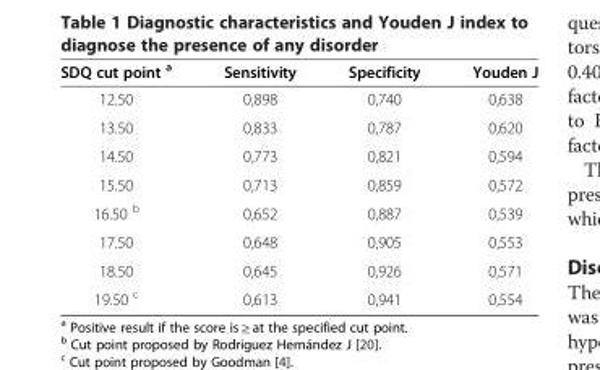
<table><thead><tr><td>SDQ cut point <sup>a</sup></td><td>Sensitivity</td><td>Specificity</td><td>Youden J</td></tr></thead><tbody><tr><td>12.50</td><td>0,898</td><td>0,740</td><td>0,638</td></tr><tr><td>13.50</td><td>0,833</td><td>0,787</td><td>0,620</td></tr><tr><td>14.50</td><td>0,773</td><td>0,821</td><td>0,594</td></tr><tr><td>15.50</td><td>0,713</td><td>0,859</td><td>0,572</td></tr><tr><td>16.50 <sup>b</sup></td><td>0,652</td><td>0,887</td><td>0,539</td></tr><tr><td>17.50</td><td>0,648</td><td>0,905</td><td>0,553</td></tr><tr><td>18.50</td><td>0,645</td><td>0,926</td><td>0,571</td></tr><tr><td>19.50 <sup>c</sup></td><td>0,613</td><td>0,941</td><td>0,554</td></tr></tbody></table>